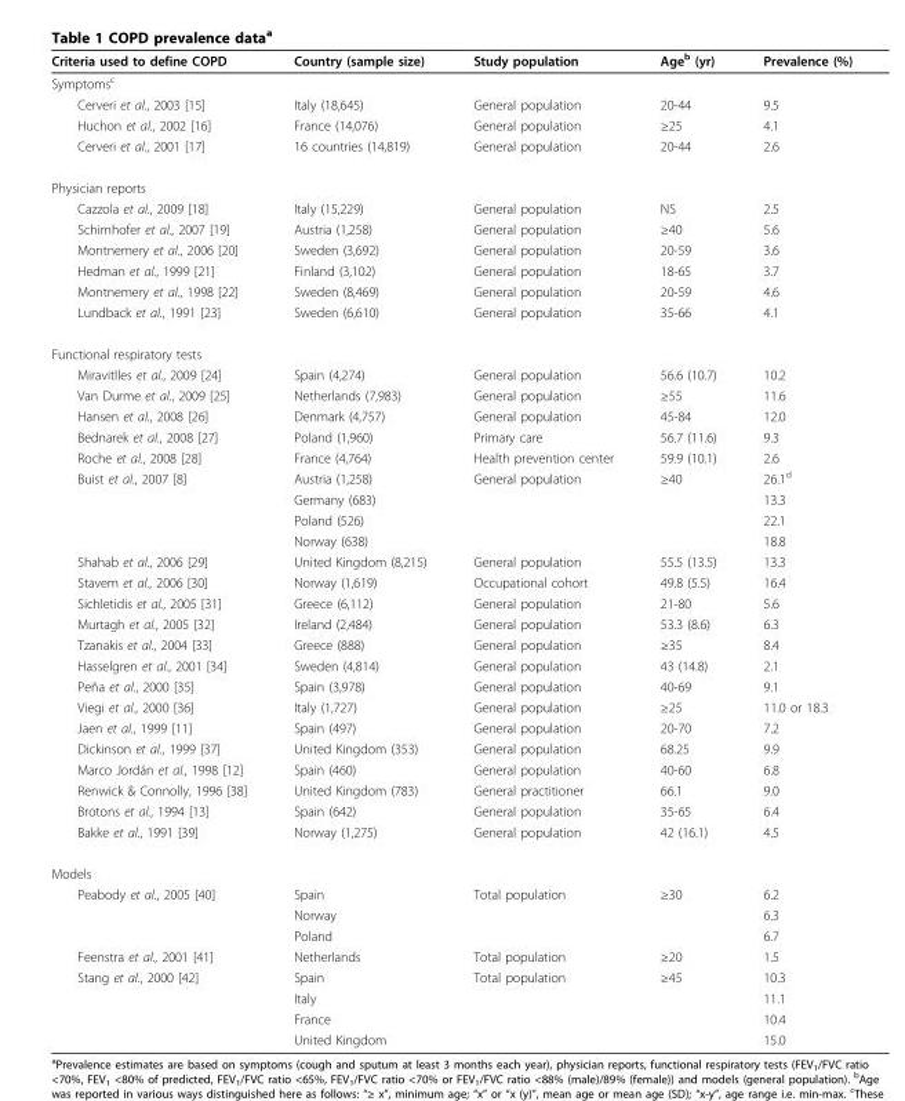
<table><thead><tr><td>Criteria used to define COPD</td><td>Country (sample size)</td><td>Study population</td><td>Age<sup>b</sup> (yr)</td><td>Prevalence (%)</td></tr></thead><tbody><tr><td colspan="5">Symptoms<sup>c</sup></td></tr><tr><td>Cerveri et al., 2003 [15]</td><td>Italy (18,645)</td><td>General population</td><td>20-44</td><td>9.5</td></tr><tr><td>Huchon et al., 2002 [16]</td><td>France (14,076)</td><td>General population</td><td>≥25</td><td>4.1</td></tr><tr><td>Cerveri et al., 2001 [17]</td><td>16 countries (14,819)</td><td>General population</td><td>20-44</td><td>2.6</td></tr><tr><td colspan="5">Physician reports</td></tr><tr><td>Cazzola et al., 2009 [18]</td><td>Italy (15,229)</td><td>General population</td><td>NS</td><td>2.5</td></tr><tr><td>Schirnhofer et al., 2007 [19]</td><td>Austria (1,258)</td><td>General population</td><td>≥40</td><td>5.6</td></tr><tr><td>Montnemery et al., 2006 [20]</td><td>Sweden (3,692)</td><td>General population</td><td>20-59</td><td>3.6</td></tr><tr><td>Hedman et al., 1999 [21]</td><td>Finland (3,102)</td><td>General population</td><td>18-65</td><td>3.7</td></tr><tr><td>Montnemery et al., 1998 [22]</td><td>Sweden (8,469)</td><td>General population</td><td>20-59</td><td>4.6</td></tr><tr><td>Lundback et al., 1991 [23]</td><td>Sweden (6,610)</td><td>General population</td><td>35-66</td><td>4.1</td></tr><tr><td colspan="5">Functional respiratory tests</td></tr><tr><td>Miravitlles et al., 2009 [24]</td><td>Spain (4,274)</td><td>General population</td><td>56.6 (10.7)</td><td>10.2</td></tr><tr><td>Van Durme et al., 2009 [25]</td><td>Netherlands (7,983)</td><td>General population</td><td>≥55</td><td>11.6</td></tr><tr><td>Hansen et al., 2008 [26]</td><td>Denmark (4,757)</td><td>General population</td><td>45-84</td><td>12.0</td></tr><tr><td>Bednarek et al., 2008 [27]</td><td>Poland (1,960)</td><td>Primary care</td><td>56.7 (11.6)</td><td>9.3</td></tr><tr><td>Roche et al., 2008 [28]</td><td>France (4,764)</td><td>Health prevention center</td><td>59.9 (10.1)</td><td>2.6</td></tr><tr><td rowspan="4">Buist et al., 2007 [8]</td><td>Austria (1,258)</td><td>General population</td><td>≥40</td><td>26.1<sup>d</sup></td></tr><tr><td>Germany (683)</td><td></td><td></td><td>13.3</td></tr><tr><td>Poland (526)</td><td></td><td></td><td>22.1</td></tr><tr><td>Norway (638)</td><td></td><td></td><td>18.8</td></tr><tr><td>Shahab et al., 2006 [29]</td><td>United Kingdom (8,215)</td><td>General population</td><td>55.5 (13.5)</td><td>13.3</td></tr><tr><td>Stavem et al., 2006 [30]</td><td>Norway (1,619)</td><td>Occupational cohort</td><td>49.8 (5.5)</td><td>16.4</td></tr><tr><td>Sichletidis et al., 2005 [31]</td><td>Greece (6,112)</td><td>General population</td><td>21-80</td><td>5.6</td></tr><tr><td>Murtagh et al., 2005 [32]</td><td>Ireland (2,484)</td><td>General population</td><td>53.3 (8.6)</td><td>6.3</td></tr><tr><td>Tzanakis et al., 2004 [33]</td><td>Greece (888)</td><td>General population</td><td>≥35</td><td>8.4</td></tr><tr><td>Hasselgren et al., 2001 [34]</td><td>Sweden (4,814)</td><td>General population</td><td>43 (14.8)</td><td>2.1</td></tr><tr><td>Peña et al., 2000 [35]</td><td>Spain (3,978)</td><td>General population</td><td>40-69</td><td>9.1</td></tr><tr><td>Viegi et al., 2000 [36]</td><td>Italy (1,727)</td><td>General population</td><td>≥25</td><td>11.0 or 18.3</td></tr><tr><td>Jaen et al., 1999 [11]</td><td>Spain (497)</td><td>General population</td><td>20-70</td><td>7.2</td></tr><tr><td>Dickinson et al., 1999 [37]</td><td>United Kingdom (353)</td><td>General population</td><td>68.25</td><td>9.9</td></tr><tr><td>Marco Jordán et al., 1998 [12]</td><td>Spain (460)</td><td>General population</td><td>40-60</td><td>6.8</td></tr><tr><td>Renwick &amp; Connolly, 1996 [38]</td><td>United Kingdom (783)</td><td>General practitioner</td><td>66.1</td><td>9.0</td></tr><tr><td>Brotons et al., 1994 [13]</td><td>Spain (642)</td><td>General population</td><td>35-65</td><td>6.4</td></tr><tr><td>Bakke et al., 1991 [39]</td><td>Norway (1,275)</td><td>General population</td><td>42 (16.1)</td><td>4.5</td></tr><tr><td colspan="5">Models</td></tr><tr><td rowspan="3">Peabody et al., 2005 [40]</td><td>Spain</td><td>Total population</td><td>≥30</td><td>6.2</td></tr><tr><td>Norway</td><td></td><td></td><td>6.3</td></tr><tr><td>Poland</td><td></td><td></td><td>6.7</td></tr><tr><td>Feenstra et al., 2001 [41]</td><td>Netherlands</td><td>Total population</td><td>≥20</td><td>1.5</td></tr><tr><td rowspan="4">Stang et al., 2000 [42]</td><td>Spain</td><td>Total population</td><td>≥45</td><td>10.3</td></tr><tr><td>Italy</td><td></td><td></td><td>11.1</td></tr><tr><td>France</td><td></td><td></td><td>10.4</td></tr><tr><td>United Kingdom</td><td></td><td></td><td>15.0</td></tr></tbody></table>